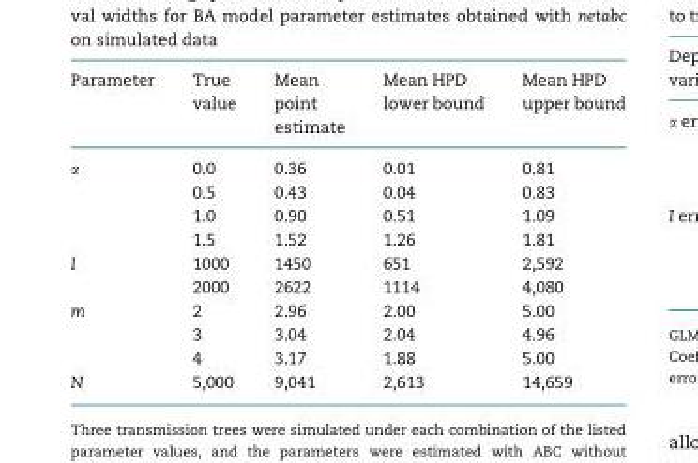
<table><thead><tr><td>Parameter</td><td>True value</td><td>Mean point estimate</td><td>Mean HPD lower bound</td><td>Mean HPD upper bound</td></tr></thead><tbody><tr><td rowspan="4">α</td><td>0.0</td><td>0.36</td><td>0.01</td><td>0.81</td></tr><tr><td>0.5</td><td>0.43</td><td>0.04</td><td>0.83</td></tr><tr><td>1.0</td><td>0.90</td><td>0.51</td><td>1.09</td></tr><tr><td>1.5</td><td>1.52</td><td>1.26</td><td>1.81</td></tr><tr><td rowspan="2">I</td><td>1000</td><td>1450</td><td>651</td><td>2,592</td></tr><tr><td>2000</td><td>2622</td><td>1114</td><td>4,080</td></tr><tr><td rowspan="3">m</td><td>2</td><td>2.96</td><td>2.00</td><td>5.00</td></tr><tr><td>3</td><td>3.04</td><td>2.04</td><td>4.96</td></tr><tr><td>4</td><td>3.17</td><td>1.88</td><td>5.00</td></tr><tr><td>N</td><td>5,000</td><td>9,041</td><td>2,613</td><td>14,659</td></tr></tbody></table>